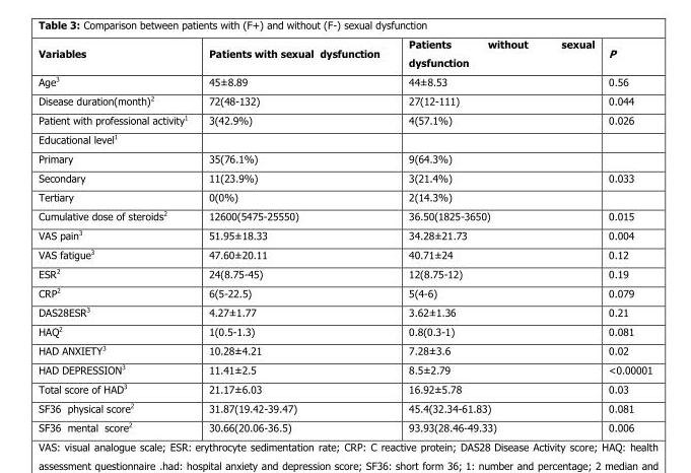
<table><thead><tr><td>Variables</td><td>Patients with sexual dysfunction</td><td>Patients without sexual dysfunction</td><td>P</td></tr></thead><tbody><tr><td>Age<sup>3</sup></td><td>45±8.89</td><td>44±8.53</td><td>0.56</td></tr><tr><td>Disease duration(month)<sup>2</sup></td><td>72(48-132)</td><td>27(12-111)</td><td>0.044</td></tr><tr><td>Patient with professional activity<sup>1</sup></td><td>3(42.9%)</td><td>4(57.1%)</td><td>0.026</td></tr><tr><td colspan="4">Educational level<sup>1</sup></td></tr><tr><td>Primary</td><td>35(76.1%)</td><td>9(64.3%)</td><td></td></tr><tr><td>Secondary</td><td>11(23.9%)</td><td>3(21.4%)</td><td>0.033</td></tr><tr><td>Tertiary</td><td>0(0%)</td><td>2(14.3%)</td><td></td></tr><tr><td>Cumulative dose of steroids<sup>2</sup></td><td>12600(5475-25550)</td><td>36.50(1825-3650)</td><td>0.015</td></tr><tr><td>VAS pain<sup>3</sup></td><td>51.95±18.33</td><td>34.28±21.73</td><td>0.004</td></tr><tr><td>VAS fatigue<sup>3</sup></td><td>47.60±20.11</td><td>40.71±24</td><td>0.12</td></tr><tr><td>ESR<sup>2</sup></td><td>24(8.75-45)</td><td>12(8.75-12)</td><td>0.19</td></tr><tr><td>CRP<sup>2</sup></td><td>6(5-22.5)</td><td>5(4-6)</td><td>0.079</td></tr><tr><td>DAS28ESR<sup>3</sup></td><td>4.27±1.77</td><td>3.62±1.36</td><td>0.21</td></tr><tr><td>HAQ<sup>2</sup></td><td>1(0.5-1.3)</td><td>0.8(0.3-1)</td><td>0.081</td></tr><tr><td>HAD ANXIETY<sup>3</sup></td><td>10.28±4.21</td><td>7.28±3.6</td><td>0.02</td></tr><tr><td>HAD DEPRESSION<sup>3</sup></td><td>11.41±2.5</td><td>8.5±2.79</td><td>&lt;0.00001</td></tr><tr><td>Total score of HAD<sup>3</sup></td><td>21.17±6.03</td><td>16.92±5.78</td><td>0.03</td></tr><tr><td>SF36 physical score<sup>2</sup></td><td>31.87(19.42-39.47)</td><td>45.4(32.34-61.83)</td><td>0.081</td></tr><tr><td>SF36 mental score<sup>2</sup></td><td>30.66(20.06-36.5)</td><td>93.93(28.46-49.33)</td><td>0.006</td></tr></tbody></table>